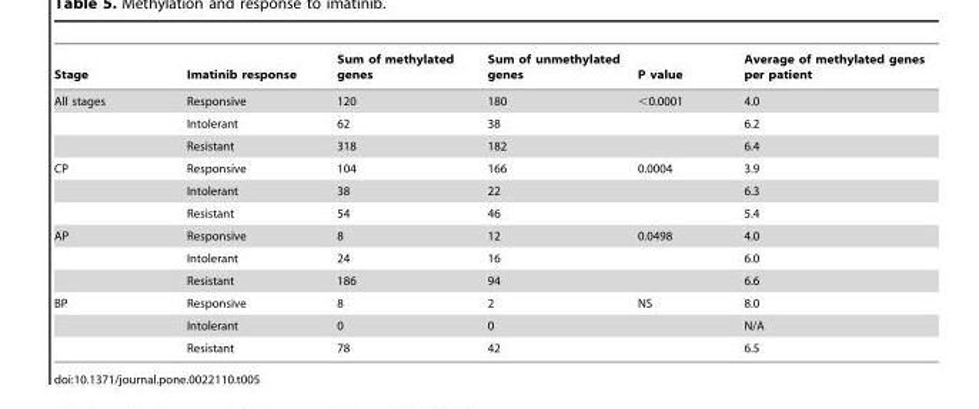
<table><thead><tr><td>Stage</td><td>Imatinib response</td><td>Sum of methylated genes</td><td>Sum of unmethylated genes</td><td>P value</td><td>Average of methylated genes per patient</td></tr></thead><tbody><tr><td rowspan="3">All stages</td><td>Responsive</td><td>120</td><td>180</td><td>&lt;0.0001</td><td>4.0</td></tr><tr><td>Intolerant</td><td>62</td><td>38</td><td></td><td>6.2</td></tr><tr><td>Resistant</td><td>318</td><td>182</td><td></td><td>6.4</td></tr><tr><td rowspan="3">CP</td><td>Responsive</td><td>104</td><td>166</td><td>0.0004</td><td>3.9</td></tr><tr><td>Intolerant</td><td>38</td><td>22</td><td></td><td>6.3</td></tr><tr><td>Resistant</td><td>54</td><td>46</td><td></td><td>5.4</td></tr><tr><td rowspan="3">AP</td><td>Responsive</td><td>8</td><td>12</td><td>0.0498</td><td>4.0</td></tr><tr><td>Intolerant</td><td>24</td><td>16</td><td></td><td>6.0</td></tr><tr><td>Resistant</td><td>186</td><td>94</td><td></td><td>6.6</td></tr><tr><td rowspan="3">BP</td><td>Responsive</td><td>8</td><td>2</td><td>NS</td><td>8.0</td></tr><tr><td>Intolerant</td><td>0</td><td>0</td><td></td><td>N/A</td></tr><tr><td>Resistant</td><td>78</td><td>42</td><td></td><td>6.5</td></tr></tbody></table>